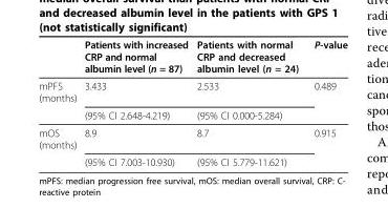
<table><thead><tr><td></td><td>Patients with increased CRP and normal albumin level (n = 87)</td><td>Patients with normal CRP and decreased albumin level (n = 24)</td><td>P-value</td></tr></thead><tbody><tr><td rowspan="2">mPFS (months)</td><td>3.433</td><td>2.533</td><td>0.489</td></tr><tr><td>(95% CI 2.648-4.219)</td><td>(95% CI 0.000-5.284)</td><td></td></tr><tr><td rowspan="2">mOS (months)</td><td>8.9</td><td>8.7</td><td>0.915</td></tr><tr><td>(95% CI 7.003-10.930)</td><td>(95% CI 5.779-11.621)</td><td></td></tr></tbody></table>